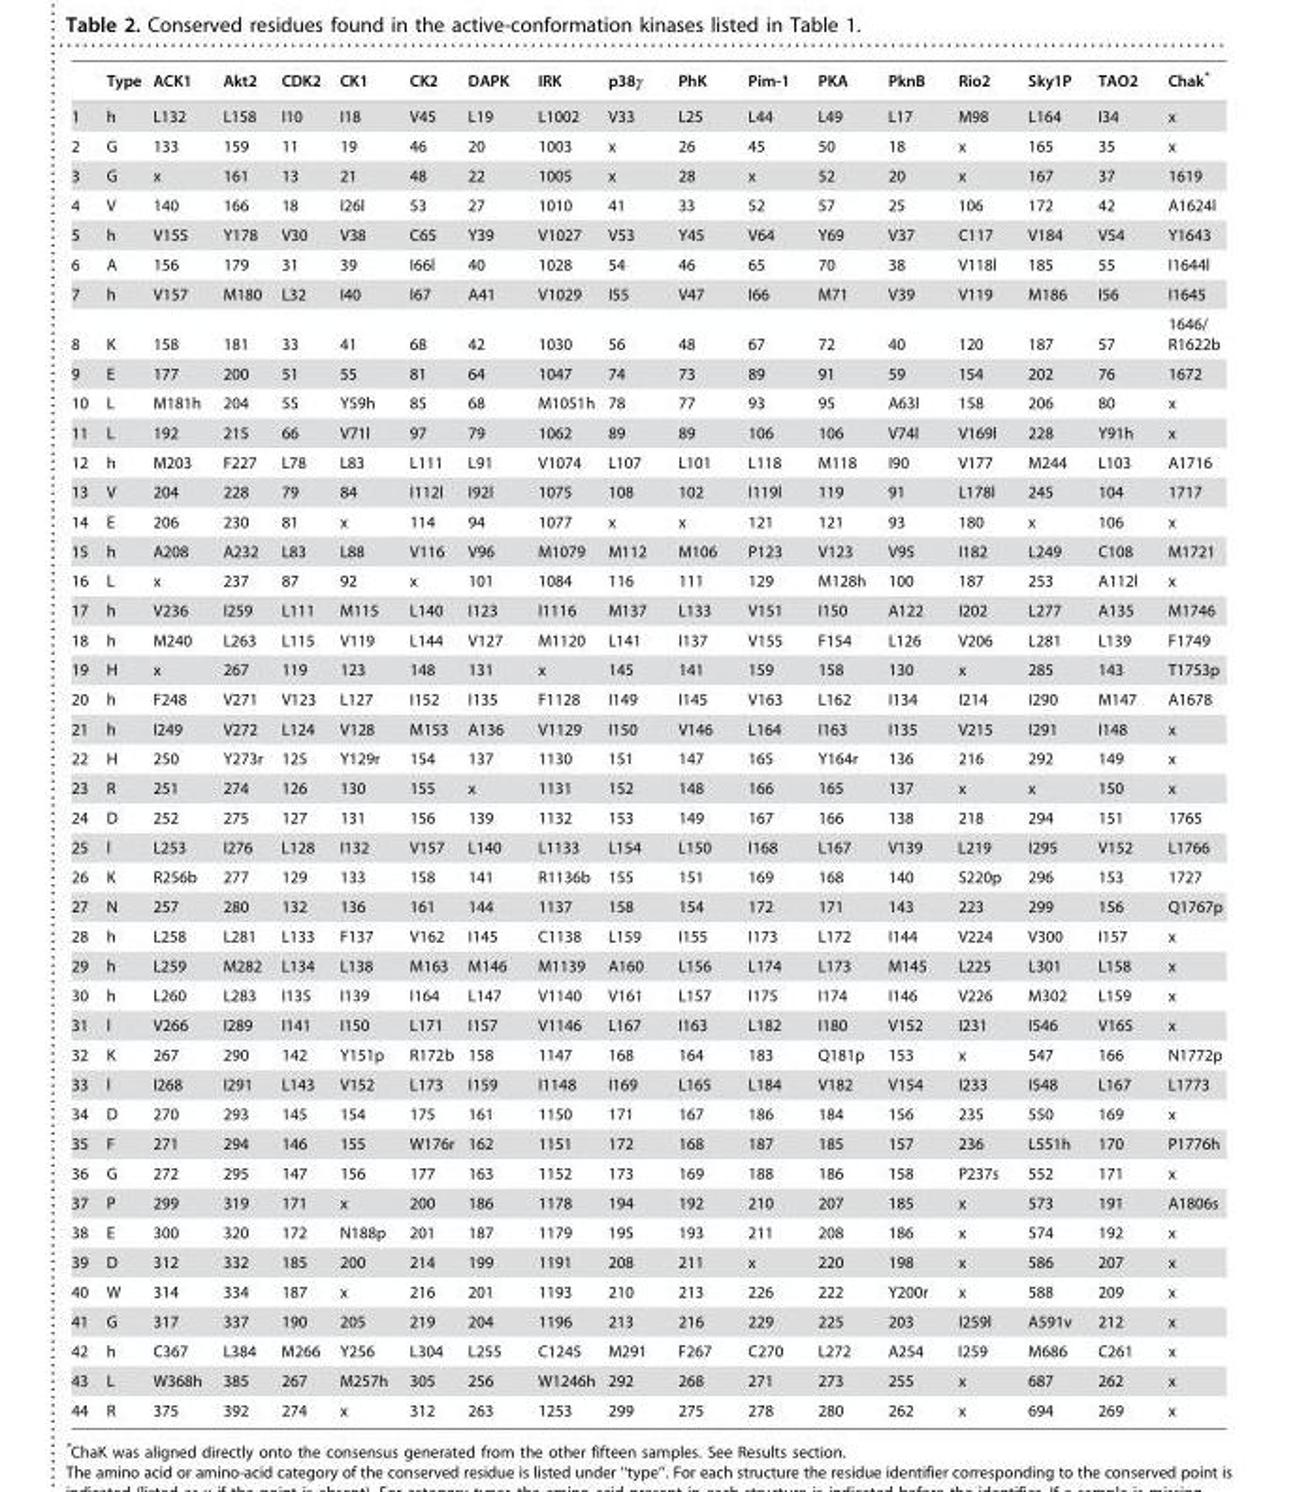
<table><thead><tr><td></td><td>Type</td><td>ACK1</td><td>Akt2</td><td>CDK2</td><td>CK1</td><td>CK2</td><td>DAPK</td><td>IRK</td><td>p38γ</td><td>PhK</td><td>Pim-1</td><td>PKA</td><td>PknB</td><td>Rio2</td><td>Sky1P</td><td>TAO2</td><td>Chak*</td></tr></thead><tbody><tr><td>1</td><td>h</td><td>L132</td><td>L158</td><td>I10</td><td>I18</td><td>V45</td><td>L19</td><td>L1002</td><td>V33</td><td>L25</td><td>L44</td><td>L49</td><td>L17</td><td>M98</td><td>L164</td><td>I34</td><td>x</td></tr><tr><td>2</td><td>G</td><td>133</td><td>159</td><td>11</td><td>19</td><td>46</td><td>20</td><td>1003</td><td>x</td><td>26</td><td>45</td><td>50</td><td>18</td><td>x</td><td>165</td><td>35</td><td>x</td></tr><tr><td>3</td><td>G</td><td>x</td><td>161</td><td>13</td><td>21</td><td>48</td><td>22</td><td>1005</td><td>x</td><td>28</td><td>x</td><td>52</td><td>20</td><td>x</td><td>167</td><td>37</td><td>1619</td></tr><tr><td>4</td><td>V</td><td>140</td><td>166</td><td>18</td><td>I26l</td><td>53</td><td>27</td><td>1010</td><td>41</td><td>33</td><td>52</td><td>57</td><td>25</td><td>106</td><td>172</td><td>42</td><td>A1624l</td></tr><tr><td>5</td><td>h</td><td>V155</td><td>Y178</td><td>V30</td><td>V38</td><td>C65</td><td>Y39</td><td>V1027</td><td>V53</td><td>Y45</td><td>V64</td><td>Y69</td><td>V37</td><td>C117</td><td>V184</td><td>V54</td><td>Y1643</td></tr><tr><td>6</td><td>A</td><td>156</td><td>179</td><td>31</td><td>39</td><td>I66l</td><td>40</td><td>1028</td><td>54</td><td>46</td><td>65</td><td>70</td><td>38</td><td>V118l</td><td>185</td><td>55</td><td>I1644l</td></tr><tr><td>7</td><td>h</td><td>V157</td><td>M180</td><td>L32</td><td>I40</td><td>I67</td><td>A41</td><td>V1029</td><td>I55</td><td>V47</td><td>I66</td><td>M71</td><td>V39</td><td>V119</td><td>M186</td><td>I56</td><td>I1645</td></tr><tr><td>8</td><td>K</td><td>158</td><td>181</td><td>33</td><td>41</td><td>68</td><td>42</td><td>1030</td><td>56</td><td>48</td><td>67</td><td>72</td><td>40</td><td>120</td><td>187</td><td>57</td><td>1646/ R1622b</td></tr><tr><td>9</td><td>E</td><td>177</td><td>200</td><td>51</td><td>55</td><td>81</td><td>64</td><td>1047</td><td>74</td><td>73</td><td>89</td><td>91</td><td>59</td><td>154</td><td>202</td><td>76</td><td>1672</td></tr><tr><td>10</td><td>L</td><td>M181h</td><td>204</td><td>55</td><td>Y59h</td><td>85</td><td>68</td><td>M1051h</td><td>78</td><td>77</td><td>93</td><td>95</td><td>A63l</td><td>158</td><td>206</td><td>80</td><td>x</td></tr><tr><td>11</td><td>L</td><td>192</td><td>215</td><td>66</td><td>V71l</td><td>97</td><td>79</td><td>1062</td><td>89</td><td>89</td><td>106</td><td>106</td><td>V74l</td><td>V169l</td><td>228</td><td>Y91h</td><td>x</td></tr><tr><td>12</td><td>h</td><td>M203</td><td>F227</td><td>L78</td><td>L83</td><td>L111</td><td>L91</td><td>V1074</td><td>L107</td><td>L101</td><td>L118</td><td>M118</td><td>I90</td><td>V177</td><td>M244</td><td>L103</td><td>A1716</td></tr><tr><td>13</td><td>V</td><td>204</td><td>228</td><td>79</td><td>84</td><td>I112l</td><td>I92l</td><td>1075</td><td>108</td><td>102</td><td>I119l</td><td>119</td><td>91</td><td>L178l</td><td>245</td><td>104</td><td>1717</td></tr><tr><td>14</td><td>E</td><td>206</td><td>230</td><td>81</td><td>x</td><td>114</td><td>94</td><td>1077</td><td>x</td><td>x</td><td>121</td><td>121</td><td>93</td><td>180</td><td>x</td><td>106</td><td>x</td></tr><tr><td>15</td><td>h</td><td>A208</td><td>A232</td><td>L83</td><td>L88</td><td>V116</td><td>V96</td><td>M1079</td><td>M112</td><td>M106</td><td>P123</td><td>V123</td><td>V95</td><td>I182</td><td>L249</td><td>C108</td><td>M1721</td></tr><tr><td>16</td><td>L</td><td>x</td><td>237</td><td>87</td><td>92</td><td>x</td><td>101</td><td>1084</td><td>116</td><td>111</td><td>129</td><td>M128h</td><td>100</td><td>187</td><td>253</td><td>A112l</td><td>x</td></tr><tr><td>17</td><td>h</td><td>V236</td><td>I259</td><td>L111</td><td>M115</td><td>L140</td><td>I123</td><td>I1116</td><td>M137</td><td>L133</td><td>V151</td><td>I150</td><td>A122</td><td>I202</td><td>L277</td><td>A135</td><td>M1746</td></tr><tr><td>18</td><td>h</td><td>M240</td><td>L263</td><td>L115</td><td>V119</td><td>L144</td><td>V127</td><td>M1120</td><td>L141</td><td>I137</td><td>V155</td><td>F154</td><td>L126</td><td>V206</td><td>L281</td><td>L139</td><td>F1749</td></tr><tr><td>19</td><td>H</td><td>x</td><td>267</td><td>119</td><td>123</td><td>148</td><td>131</td><td>x</td><td>145</td><td>141</td><td>159</td><td>158</td><td>130</td><td>x</td><td>285</td><td>143</td><td>T1753p</td></tr><tr><td>20</td><td>h</td><td>F248</td><td>V271</td><td>V123</td><td>L127</td><td>I152</td><td>I135</td><td>F1128</td><td>I149</td><td>I145</td><td>V163</td><td>L162</td><td>I134</td><td>I214</td><td>I290</td><td>M147</td><td>A1678</td></tr><tr><td>21</td><td>h</td><td>I249</td><td>V272</td><td>L124</td><td>V128</td><td>M153</td><td>A136</td><td>V1129</td><td>I150</td><td>V146</td><td>L164</td><td>I163</td><td>I135</td><td>V215</td><td>I291</td><td>I148</td><td>x</td></tr><tr><td>22</td><td>H</td><td>250</td><td>Y273r</td><td>125</td><td>Y129r</td><td>154</td><td>137</td><td>1130</td><td>151</td><td>147</td><td>165</td><td>Y164r</td><td>136</td><td>216</td><td>292</td><td>149</td><td>x</td></tr><tr><td>23</td><td>R</td><td>251</td><td>274</td><td>126</td><td>130</td><td>155</td><td>x</td><td>1131</td><td>152</td><td>148</td><td>166</td><td>165</td><td>137</td><td>x</td><td>x</td><td>150</td><td>x</td></tr><tr><td>24</td><td>D</td><td>252</td><td>275</td><td>127</td><td>131</td><td>156</td><td>139</td><td>1132</td><td>153</td><td>149</td><td>167</td><td>166</td><td>138</td><td>218</td><td>294</td><td>151</td><td>1765</td></tr><tr><td>25</td><td>l</td><td>L253</td><td>I276</td><td>L128</td><td>I132</td><td>V157</td><td>L140</td><td>L1133</td><td>L154</td><td>L150</td><td>I168</td><td>L167</td><td>V139</td><td>L219</td><td>I295</td><td>V152</td><td>L1766</td></tr><tr><td>26</td><td>K</td><td>R256b</td><td>277</td><td>129</td><td>133</td><td>158</td><td>141</td><td>R1136b</td><td>155</td><td>151</td><td>169</td><td>168</td><td>140</td><td>S220p</td><td>296</td><td>153</td><td>1727</td></tr><tr><td>27</td><td>N</td><td>257</td><td>280</td><td>132</td><td>136</td><td>161</td><td>144</td><td>1137</td><td>158</td><td>154</td><td>172</td><td>171</td><td>143</td><td>223</td><td>299</td><td>156</td><td>Q1767p</td></tr><tr><td>28</td><td>h</td><td>L258</td><td>L281</td><td>L133</td><td>F137</td><td>V162</td><td>I145</td><td>C1138</td><td>L159</td><td>I155</td><td>I173</td><td>L172</td><td>I144</td><td>V224</td><td>V300</td><td>I157</td><td>x</td></tr><tr><td>29</td><td>h</td><td>L259</td><td>M282</td><td>L134</td><td>L138</td><td>M163</td><td>M146</td><td>M1139</td><td>A160</td><td>L156</td><td>L174</td><td>L173</td><td>M145</td><td>L225</td><td>L301</td><td>L158</td><td>x</td></tr><tr><td>30</td><td>h</td><td>L260</td><td>L283</td><td>I135</td><td>I139</td><td>I164</td><td>L147</td><td>V1140</td><td>V161</td><td>L157</td><td>I175</td><td>I174</td><td>I146</td><td>V226</td><td>M302</td><td>L159</td><td>x</td></tr><tr><td>31</td><td>l</td><td>V266</td><td>I289</td><td>I141</td><td>I150</td><td>L171</td><td>I157</td><td>V1146</td><td>L167</td><td>I163</td><td>L182</td><td>I180</td><td>V152</td><td>I231</td><td>I546</td><td>V165</td><td>x</td></tr><tr><td>32</td><td>K</td><td>267</td><td>290</td><td>142</td><td>Y151p</td><td>R172b</td><td>158</td><td>1147</td><td>168</td><td>164</td><td>183</td><td>Q181p</td><td>153</td><td>x</td><td>547</td><td>166</td><td>N1772p</td></tr><tr><td>33</td><td>l</td><td>I268</td><td>I291</td><td>L143</td><td>V152</td><td>L173</td><td>I159</td><td>I1148</td><td>I169</td><td>L165</td><td>L184</td><td>V182</td><td>V154</td><td>I233</td><td>I548</td><td>L167</td><td>L1773</td></tr><tr><td>34</td><td>D</td><td>270</td><td>293</td><td>145</td><td>154</td><td>175</td><td>161</td><td>1150</td><td>171</td><td>167</td><td>186</td><td>184</td><td>156</td><td>235</td><td>550</td><td>169</td><td>x</td></tr><tr><td>35</td><td>F</td><td>271</td><td>294</td><td>146</td><td>155</td><td>W176r</td><td>162</td><td>1151</td><td>172</td><td>168</td><td>187</td><td>185</td><td>157</td><td>236</td><td>L551h</td><td>170</td><td>P1776h</td></tr><tr><td>36</td><td>G</td><td>272</td><td>295</td><td>147</td><td>156</td><td>177</td><td>163</td><td>1152</td><td>173</td><td>169</td><td>188</td><td>186</td><td>158</td><td>P237s</td><td>552</td><td>171</td><td>x</td></tr><tr><td>37</td><td>P</td><td>299</td><td>319</td><td>171</td><td>x</td><td>200</td><td>186</td><td>1178</td><td>194</td><td>192</td><td>210</td><td>207</td><td>185</td><td>x</td><td>573</td><td>191</td><td>A1806s</td></tr><tr><td>38</td><td>E</td><td>300</td><td>320</td><td>172</td><td>N188p</td><td>201</td><td>187</td><td>1179</td><td>195</td><td>193</td><td>211</td><td>208</td><td>186</td><td>x</td><td>574</td><td>192</td><td>x</td></tr><tr><td>39</td><td>D</td><td>312</td><td>332</td><td>185</td><td>200</td><td>214</td><td>199</td><td>1191</td><td>208</td><td>211</td><td>x</td><td>220</td><td>198</td><td>x</td><td>586</td><td>207</td><td>x</td></tr><tr><td>40</td><td>W</td><td>314</td><td>334</td><td>187</td><td>x</td><td>216</td><td>201</td><td>1193</td><td>210</td><td>213</td><td>226</td><td>222</td><td>Y200r</td><td>x</td><td>588</td><td>209</td><td>x</td></tr><tr><td>41</td><td>G</td><td>317</td><td>337</td><td>190</td><td>205</td><td>219</td><td>204</td><td>1196</td><td>213</td><td>216</td><td>229</td><td>225</td><td>203</td><td>I259l</td><td>A591v</td><td>212</td><td>x</td></tr><tr><td>42</td><td>h</td><td>C367</td><td>L384</td><td>M266</td><td>Y256</td><td>L304</td><td>L255</td><td>C1245</td><td>M291</td><td>F267</td><td>C270</td><td>L272</td><td>A254</td><td>I259</td><td>M686</td><td>C261</td><td>x</td></tr><tr><td>43</td><td>L</td><td>W368h</td><td>385</td><td>267</td><td>M257h</td><td>305</td><td>256</td><td>W1246h</td><td>292</td><td>268</td><td>271</td><td>273</td><td>255</td><td>x</td><td>687</td><td>262</td><td>x</td></tr><tr><td>44</td><td>R</td><td>375</td><td>392</td><td>274</td><td>x</td><td>312</td><td>263</td><td>1253</td><td>299</td><td>275</td><td>278</td><td>280</td><td>262</td><td>x</td><td>694</td><td>269</td><td>x</td></tr></tbody></table>